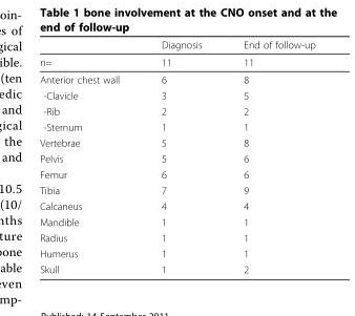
<table><thead><tr><td></td><td>Diagnosis</td><td>End of follow-up</td></tr></thead><tbody><tr><td>n=</td><td>11</td><td>11</td></tr><tr><td>Anterior chest wall</td><td>6</td><td>8</td></tr><tr><td>-Clavicle</td><td>3</td><td>5</td></tr><tr><td>-Rib</td><td>2</td><td>2</td></tr><tr><td>-Sternum</td><td>1</td><td>1</td></tr><tr><td>Vertebrae</td><td>5</td><td>8</td></tr><tr><td>Pelvis</td><td>5</td><td>6</td></tr><tr><td>Femur</td><td>6</td><td>6</td></tr><tr><td>Tibia</td><td>7</td><td>9</td></tr><tr><td>Calcaneus</td><td>4</td><td>4</td></tr><tr><td>Mandible</td><td>1</td><td>1</td></tr><tr><td>Radius</td><td>1</td><td>1</td></tr><tr><td>Humerus</td><td>1</td><td>1</td></tr><tr><td>Skull</td><td>1</td><td>2</td></tr></tbody></table>